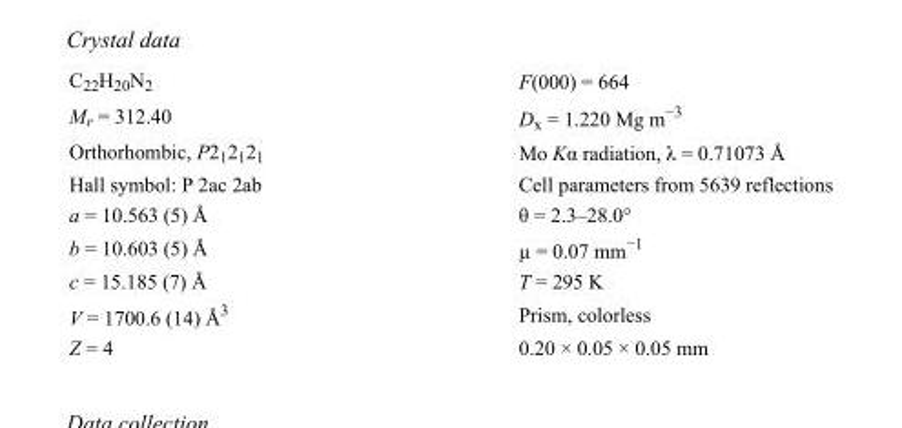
<table><tbody><tr><td>C<sub>22</sub>H<sub>20</sub>N<sub>2</sub></td><td>F(000) = 664</td></tr><tr><td>M<sub>r</sub> = 312.40</td><td>D<sub>x</sub> = 1.220 Mg m<sup>−3</sup></td></tr><tr><td>Orthorhombic, P2<sub>1</sub>2<sub>1</sub>2<sub>1</sub></td><td>Mo Kα radiation, λ = 0.71073 Å</td></tr><tr><td>Hall symbol: P 2ac 2ab</td><td>Cell parameters from 5639 reflections</td></tr><tr><td>a = 10.563 (5) Å</td><td>θ = 2.3–28.0°</td></tr><tr><td>b = 10.603 (5) Å</td><td>µ = 0.07 mm<sup>−1</sup></td></tr><tr><td>c = 15.185 (7) Å</td><td>T = 295 K</td></tr><tr><td>V = 1700.6 (14) Å<sup>3</sup></td><td>Prism, colorless</td></tr><tr><td>Z = 4</td><td>0.20 × 0.05 × 0.05 mm</td></tr></tbody></table>